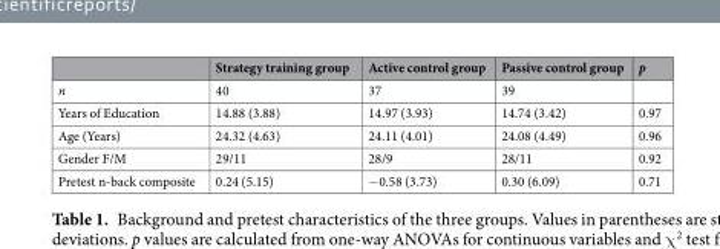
<table><thead><tr><td></td><td>Strategy training group</td><td>Active control group</td><td>Passive control group</td><td>p</td></tr></thead><tbody><tr><td>n</td><td>40</td><td>37</td><td>39</td><td></td></tr><tr><td>Years of Education</td><td>14.88 (3.88)</td><td>14.97 (3.93)</td><td>14.74 (3.42)</td><td>0.97</td></tr><tr><td>Age (Years)</td><td>24.32 (4.63)</td><td>24.11 (4.01)</td><td>24.08 (4.49)</td><td>0.96</td></tr><tr><td>Gender F/M</td><td>29/11</td><td>28/9</td><td>28/11</td><td>0.92</td></tr><tr><td>Pretest n-back composite</td><td>0.24 (5.15)</td><td>−0.58 (3.73)</td><td>0.30 (6.09)</td><td>0.71</td></tr></tbody></table>